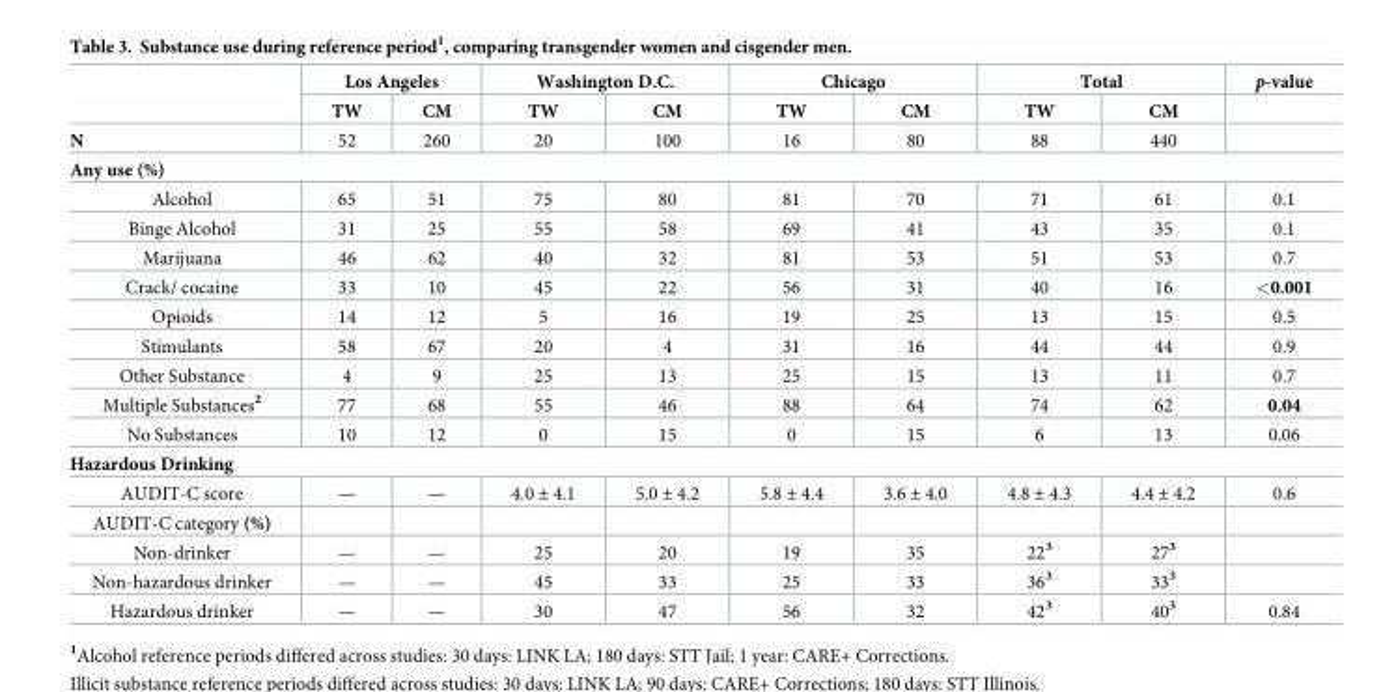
<table><thead><tr><td rowspan="2"></td><td colspan="2">Los Angeles</td><td colspan="2">Washington D.C.</td><td colspan="2">Chicago</td><td colspan="2">Total</td><td rowspan="2">p-value</td></tr><tr><td>TW</td><td>CM</td><td>TW</td><td>CM</td><td>TW</td><td>CM</td><td>TW</td><td>CM</td></tr></thead><tbody><tr><td>N</td><td>52</td><td>260</td><td>20</td><td>100</td><td>16</td><td>80</td><td>88</td><td>440</td><td></td></tr><tr><td colspan="10">Any use (%)</td></tr><tr><td>Alcohol</td><td>65</td><td>51</td><td>75</td><td>80</td><td>81</td><td>70</td><td>71</td><td>61</td><td>0.1</td></tr><tr><td>Binge Alcohol</td><td>31</td><td>25</td><td>55</td><td>58</td><td>69</td><td>41</td><td>43</td><td>35</td><td>0.1</td></tr><tr><td>Marijuana</td><td>46</td><td>62</td><td>40</td><td>32</td><td>81</td><td>53</td><td>51</td><td>53</td><td>0.7</td></tr><tr><td>Crack/ cocaine</td><td>33</td><td>10</td><td>45</td><td>22</td><td>56</td><td>31</td><td>40</td><td>16</td><td>&lt;0.001</td></tr><tr><td>Opioids</td><td>14</td><td>12</td><td>5</td><td>16</td><td>19</td><td>25</td><td>13</td><td>15</td><td>0.5</td></tr><tr><td>Stimulants</td><td>58</td><td>67</td><td>20</td><td>4</td><td>31</td><td>16</td><td>44</td><td>44</td><td>0.9</td></tr><tr><td>Other Substance</td><td>4</td><td>9</td><td>25</td><td>13</td><td>25</td><td>15</td><td>13</td><td>11</td><td>0.7</td></tr><tr><td>Multiple Substances<sup>2</sup></td><td>77</td><td>68</td><td>55</td><td>46</td><td>88</td><td>64</td><td>74</td><td>62</td><td>0.04</td></tr><tr><td>No Substances</td><td>10</td><td>12</td><td>0</td><td>15</td><td>0</td><td>15</td><td>6</td><td>13</td><td>0.06</td></tr><tr><td colspan="10">Hazardous Drinking</td></tr><tr><td>AUDIT-C score</td><td>—</td><td>—</td><td>4.0 ± 4.1</td><td>5.0 ± 4.2</td><td>5.8 ± 4.4</td><td>3.6 ± 4.0</td><td>4.8 ± 4.3</td><td>4.4 ± 4.2</td><td>0.6</td></tr><tr><td colspan="10">AUDIT-C category (%)</td></tr><tr><td>Non-drinker</td><td>—</td><td>—</td><td>25</td><td>20</td><td>19</td><td>35</td><td>22<sup>3</sup></td><td>27<sup>3</sup></td><td></td></tr><tr><td>Non-hazardous drinker</td><td>—</td><td>—</td><td>45</td><td>33</td><td>25</td><td>33</td><td>36<sup>3</sup></td><td>33<sup>3</sup></td><td></td></tr><tr><td>Hazardous drinker</td><td>—</td><td>—</td><td>30</td><td>47</td><td>56</td><td>32</td><td>42<sup>3</sup></td><td>40<sup>3</sup></td><td>0.84</td></tr></tbody></table>